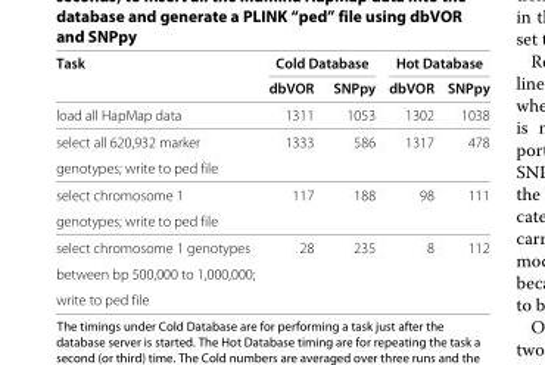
<table><thead><tr><td rowspan="2">Task</td><td colspan="2">Cold Database</td><td colspan="2">Hot Database</td></tr><tr><td>dbVOR</td><td>SNPpy</td><td>dbVOR</td><td>SNPpy</td></tr></thead><tbody><tr><td>load all HapMap data</td><td>1311</td><td>1053</td><td>1302</td><td>1038</td></tr><tr><td>select all 620,932 marker</td><td>1333</td><td>586</td><td>1317</td><td>478</td></tr><tr><td colspan="5">genotypes; write to ped file</td></tr><tr><td>select chromosome 1</td><td>117</td><td>188</td><td>98</td><td>111</td></tr><tr><td colspan="5">genotypes; write to ped file</td></tr><tr><td>select chromosome 1 genotypes</td><td>28</td><td>235</td><td>8</td><td>112</td></tr><tr><td colspan="5">between bp 500,000 to 1,000,000;</td></tr><tr><td>write to ped file</td><td></td><td></td><td></td><td></td></tr></tbody></table>